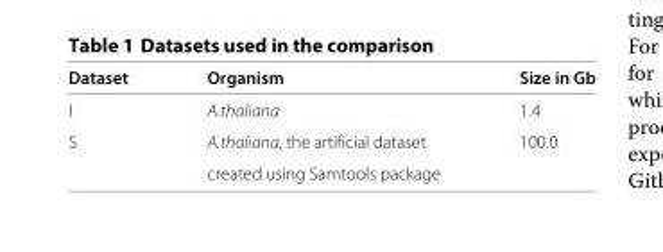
<table><thead><tr><td>Dataset</td><td>Organism</td><td>Size in Gb</td></tr></thead><tbody><tr><td>I</td><td>A.thaliana</td><td>1.4</td></tr><tr><td rowspan="2">S</td><td>A.thaliana, the artificial dataset</td><td>100.0</td></tr><tr><td>created using Samtools package</td><td></td></tr></tbody></table>